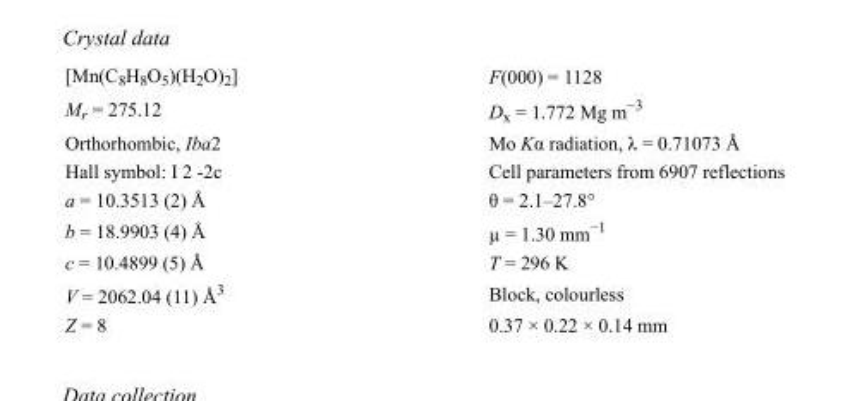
<table><tbody><tr><td>[Mn(C<sub>8</sub>H<sub>8</sub>O<sub>5</sub>)(H<sub>2</sub>O)<sub>2</sub>]</td><td>F(000) = 1128</td></tr><tr><td>M<sub>r</sub> = 275.12</td><td>D<sub>x</sub> = 1.772 Mg m<sup>−3</sup></td></tr><tr><td>Orthorhombic, Iba2</td><td>Mo Kα radiation, λ = 0.71073 Å</td></tr><tr><td>Hall symbol: I 2 -2c</td><td>Cell parameters from 6907 reflections</td></tr><tr><td>a = 10.3513 (2) Å</td><td>θ = 2.1–27.8°</td></tr><tr><td>b = 18.9903 (4) Å</td><td>µ = 1.30 mm<sup>−1</sup></td></tr><tr><td>c = 10.4899 (5) Å</td><td>T = 296 K</td></tr><tr><td>V = 2062.04 (11) Å<sup>3</sup></td><td>Block, colourless</td></tr><tr><td>Z = 8</td><td>0.37 × 0.22 × 0.14 mm</td></tr></tbody></table>